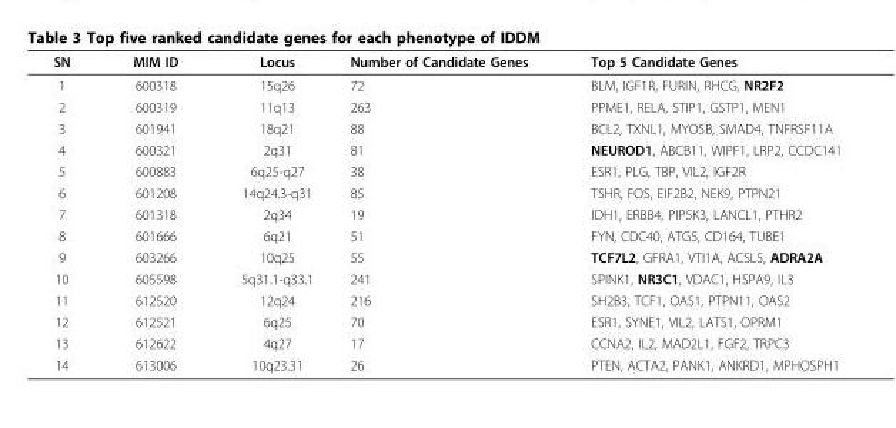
<table><thead><tr><td>SN</td><td>MIM ID</td><td>Locus</td><td>Number of Candidate Genes</td><td>Top 5 Candidate Genes</td></tr></thead><tbody><tr><td>1</td><td>600318</td><td>15q26</td><td>72</td><td>BLM, IGF1R, FURIN, RHCG, NR2F2</td></tr><tr><td>2</td><td>600319</td><td>11q13</td><td>263</td><td>PPME1, RELA, STIP1, GSTP1, MEN1</td></tr><tr><td>3</td><td>601941</td><td>18q21</td><td>88</td><td>BCL2, TXNL1, MYO5B, SMAD4, TNFRSF11A</td></tr><tr><td>4</td><td>600321</td><td>2q31</td><td>81</td><td>NEUROD1, ABCB11, WIPF1, LRP2, CCDC141</td></tr><tr><td>5</td><td>600883</td><td>6q25-q27</td><td>38</td><td>ESR1, PLG, TBP, VIL2, IGF2R</td></tr><tr><td>6</td><td>601208</td><td>14q24.3-q31</td><td>85</td><td>TSHR, FOS, EIF2B2, NEK9, PTPN21</td></tr><tr><td>7</td><td>601318</td><td>2q34</td><td>19</td><td>IDH1, ERBB4, PIP5K3, LANCL1, PTHR2</td></tr><tr><td>8</td><td>601666</td><td>6q21</td><td>51</td><td>FYN, CDC40, ATG5, CD164, TUBE1</td></tr><tr><td>9</td><td>603266</td><td>10q25</td><td>55</td><td>TCF7L2, GFRA1, VTI1A, ACSL5, ADRA2A</td></tr><tr><td>10</td><td>605598</td><td>5q31.1-q33.1</td><td>241</td><td>SPINK1, NR3C1, VDAC1, HSPA9, IL3</td></tr><tr><td>11</td><td>612520</td><td>12q24</td><td>216</td><td>SH2B3, TCF1, OAS1, PTPN11, OAS2</td></tr><tr><td>12</td><td>612521</td><td>6q25</td><td>70</td><td>ESR1, SYNE1, VIL2, LATS1, OPRM1</td></tr><tr><td>13</td><td>612622</td><td>4q27</td><td>17</td><td>CCNA2, IL2, MAD2L1, FGF2, TRPC3</td></tr><tr><td>14</td><td>613006</td><td>10q23.31</td><td>26</td><td>PTEN, ACTA2, PANK1, ANKRD1, MPHOSPH1</td></tr></tbody></table>